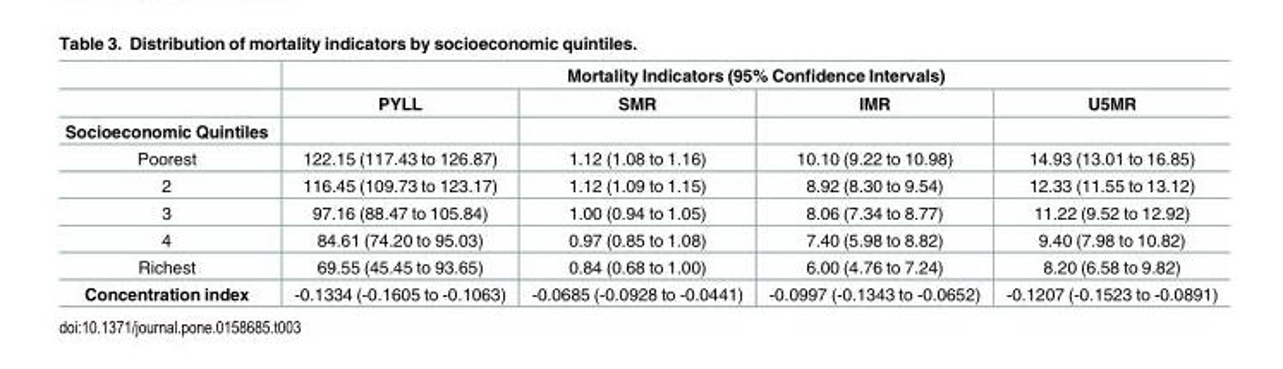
<table><thead><tr><td rowspan="2"></td><td colspan="4">Mortality Indicators (95% Confidence Intervals)</td></tr><tr><td>PYLL</td><td>SMR</td><td>IMR</td><td>U5MR</td></tr></thead><tbody><tr><td colspan="5">Socioeconomic Quintiles</td></tr><tr><td>Poorest</td><td>122.15 (117.43 to 126.87)</td><td>1.12 (1.08 to 1.16)</td><td>10.10 (9.22 to 10.98)</td><td>14.93 (13.01 to 16.85)</td></tr><tr><td>2</td><td>116.45 (109.73 to 123.17)</td><td>1.12 (1.09 to 1.15)</td><td>8.92 (8.30 to 9.54)</td><td>12.33 (11.55 to 13.12)</td></tr><tr><td>3</td><td>97.16 (88.47 to 105.84)</td><td>1.00 (0.94 to 1.05)</td><td>8.06 (7.34 to 8.77)</td><td>11.22 (9.52 to 12.92)</td></tr><tr><td>4</td><td>84.61 (74.20 to 95.03)</td><td>0.97 (0.85 to 1.08)</td><td>7.40 (5.98 to 8.82)</td><td>9.40 (7.98 to 10.82)</td></tr><tr><td>Richest</td><td>69.55 (45.45 to 93.65)</td><td>0.84 (0.68 to 1.00)</td><td>6.00 (4.76 to 7.24)</td><td>8.20 (6.58 to 9.82)</td></tr><tr><td>Concentration index</td><td>-0.1334 (-0.1605 to -0.1063)</td><td>-0.0685 (-0.0928 to -0.0441)</td><td>-0.0997 (-0.1343 to -0.0652)</td><td>-0.1207 (-0.1523 to -0.0891)</td></tr></tbody></table>